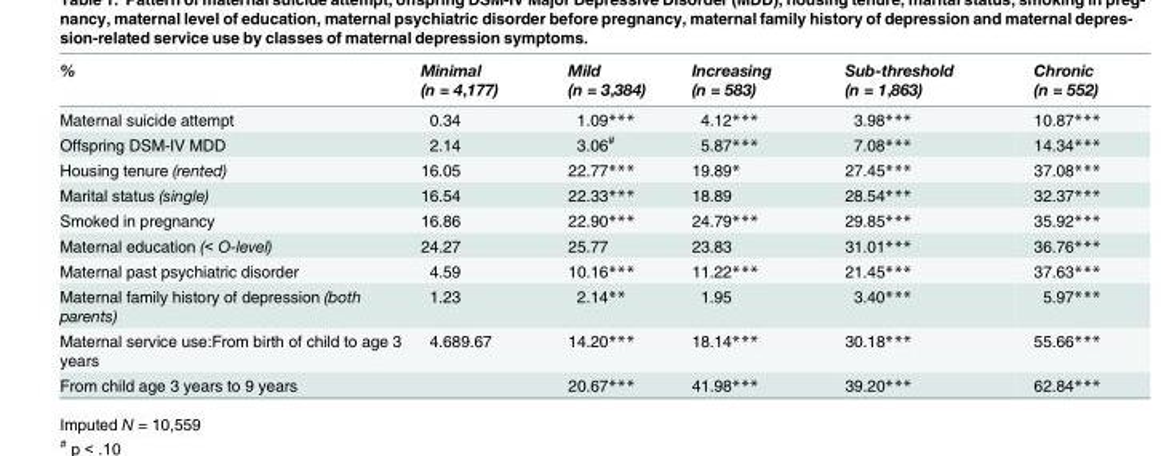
<table><thead><tr><td>%</td><td>Minimal (n = 4,177)</td><td>Mild (n = 3,384)</td><td>Increasing (n = 583)</td><td>Sub-threshold (n = 1,863)</td><td>Chronic (n = 552)</td></tr></thead><tbody><tr><td>Maternal suicide attempt</td><td>0.34</td><td>1.09***</td><td>4.12***</td><td>3.98***</td><td>10.87***</td></tr><tr><td>Offspring DSM-IV MDD</td><td>2.14</td><td>3.06<sup>#</sup></td><td>5.87***</td><td>7.08***</td><td>14.34***</td></tr><tr><td>Housing tenure (rented)</td><td>16.05</td><td>22.77***</td><td>19.89*</td><td>27.45***</td><td>37.08***</td></tr><tr><td>Marital status (single)</td><td>16.54</td><td>22.33***</td><td>18.89</td><td>28.54***</td><td>32.37***</td></tr><tr><td>Smoked in pregnancy</td><td>16.86</td><td>22.90***</td><td>24.79***</td><td>29.85***</td><td>35.92***</td></tr><tr><td>Maternal education (&lt; O-level)</td><td>24.27</td><td>25.77</td><td>23.83</td><td>31.01***</td><td>36.76***</td></tr><tr><td>Maternal past psychiatric disorder</td><td>4.59</td><td>10.16***</td><td>11.22***</td><td>21.45***</td><td>37.63***</td></tr><tr><td>Maternal family history of depression (both parents)</td><td>1.23</td><td>2.14**</td><td>1.95</td><td>3.40***</td><td>5.97***</td></tr><tr><td>Maternal service use:From birth of child to age 3 years</td><td>4.689.67</td><td>14.20***</td><td>18.14***</td><td>30.18***</td><td>55.66***</td></tr><tr><td>From child age 3 years to 9 years</td><td></td><td>20.67***</td><td>41.98***</td><td>39.20***</td><td>62.84***</td></tr></tbody></table>